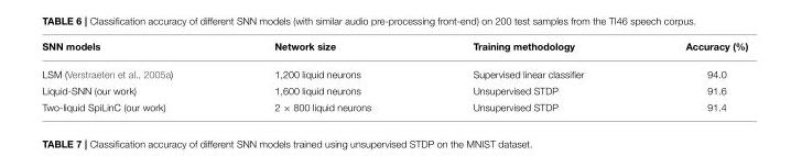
<table><thead><tr><td>SNN models</td><td>Network size</td><td>Training methodology</td><td>Accuracy (%)</td></tr></thead><tbody><tr><td>LSM (Verstraeten et al., 2005a)</td><td>1,200 liquid neurons</td><td>Supervised linear classifier</td><td>94.0</td></tr><tr><td>Liquid-SNN (our work)</td><td>1,600 liquid neurons</td><td>Unsupervised STDP</td><td>91.6</td></tr><tr><td>Two-liquid SpiLinC (our work)</td><td>2 × 800 liquid neurons</td><td>Unsupervised STDP</td><td>91.4</td></tr></tbody></table>